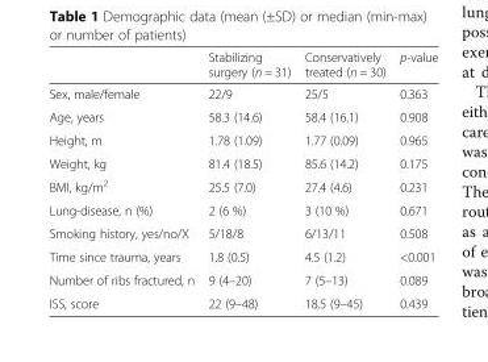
<table><thead><tr><td></td><td>Stabilizing surgery (n = 31)</td><td>Conservatively treated (n = 30)</td><td>p-value</td></tr></thead><tbody><tr><td>Sex, male/female</td><td>22/9</td><td>25/5</td><td>0.363</td></tr><tr><td>Age, years</td><td>58.3 (14.6)</td><td>58.4 (16.1)</td><td>0.908</td></tr><tr><td>Height, m</td><td>1.78 (1.09)</td><td>1.77 (0.09)</td><td>0.965</td></tr><tr><td>Weight, kg</td><td>81.4 (18.5)</td><td>85.6 (14.2)</td><td>0.175</td></tr><tr><td>BMI, kg/m<sup>2</sup></td><td>25.5 (7.0)</td><td>27.4 (4.6)</td><td>0.231</td></tr><tr><td>Lung-disease, n (%)</td><td>2 (6 %)</td><td>3 (10 %)</td><td>0.671</td></tr><tr><td>Smoking history, yes/no/X</td><td>5/18/8</td><td>6/13/11</td><td>0.508</td></tr><tr><td>Time since trauma, years</td><td>1.8 (0.5)</td><td>4.5 (1.2)</td><td>&lt;0.001</td></tr><tr><td>Number of ribs fractured, n</td><td>9 (4–20)</td><td>7 (5–13)</td><td>0.089</td></tr><tr><td>ISS, score</td><td>22 (9–48)</td><td>18.5 (9–45)</td><td>0.439</td></tr></tbody></table>